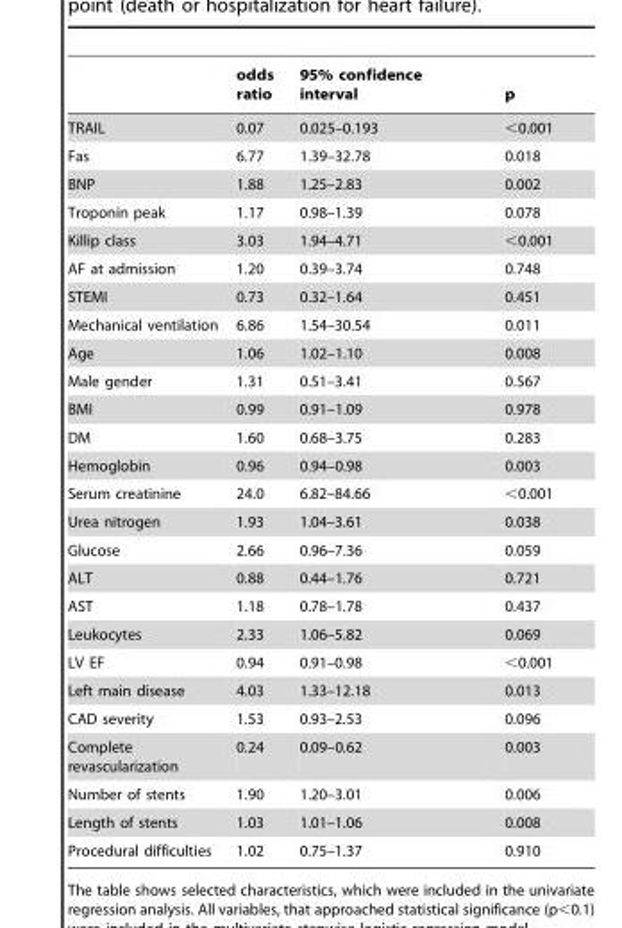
<table><thead><tr><td></td><td>odds ratio</td><td>95% confidence interval</td><td>p</td></tr></thead><tbody><tr><td>TRAIL</td><td>0.07</td><td>0.025–0.193</td><td>&lt;0.001</td></tr><tr><td>Fas</td><td>6.77</td><td>1.39–32.78</td><td>0.018</td></tr><tr><td>BNP</td><td>1.88</td><td>1.25–2.83</td><td>0.002</td></tr><tr><td>Troponin peak</td><td>1.17</td><td>0.98–1.39</td><td>0.078</td></tr><tr><td>Killip class</td><td>3.03</td><td>1.94–4.71</td><td>&lt;0.001</td></tr><tr><td>AF at admission</td><td>1.20</td><td>0.39–3.74</td><td>0.748</td></tr><tr><td>STEMI</td><td>0.73</td><td>0.32–1.64</td><td>0.451</td></tr><tr><td>Mechanical ventilation</td><td>6.86</td><td>1.54–30.54</td><td>0.011</td></tr><tr><td>Age</td><td>1.06</td><td>1.02–1.10</td><td>0.008</td></tr><tr><td>Male gender</td><td>1.31</td><td>0.51–3.41</td><td>0.567</td></tr><tr><td>BMI</td><td>0.99</td><td>0.91–1.09</td><td>0.978</td></tr><tr><td>DM</td><td>1.60</td><td>0.68–3.75</td><td>0.283</td></tr><tr><td>Hemoglobin</td><td>0.96</td><td>0.94–0.98</td><td>0.003</td></tr><tr><td>Serum creatinine</td><td>24.0</td><td>6.82–84.66</td><td>&lt;0.001</td></tr><tr><td>Urea nitrogen</td><td>1.93</td><td>1.04–3.61</td><td>0.038</td></tr><tr><td>Glucose</td><td>2.66</td><td>0.96–7.36</td><td>0.059</td></tr><tr><td>ALT</td><td>0.88</td><td>0.44–1.76</td><td>0.721</td></tr><tr><td>AST</td><td>1.18</td><td>0.78–1.78</td><td>0.437</td></tr><tr><td>Leukocytes</td><td>2.33</td><td>1.06–5.82</td><td>0.069</td></tr><tr><td>LV EF</td><td>0.94</td><td>0.91–0.98</td><td>&lt;0.001</td></tr><tr><td>Left main disease</td><td>4.03</td><td>1.33–12.18</td><td>0.013</td></tr><tr><td>CAD severity</td><td>1.53</td><td>0.93–2.53</td><td>0.096</td></tr><tr><td>Complete revascularization</td><td>0.24</td><td>0.09–0.62</td><td>0.003</td></tr><tr><td>Number of stents</td><td>1.90</td><td>1.20–3.01</td><td>0.006</td></tr><tr><td>Length of stents</td><td>1.03</td><td>1.01–1.06</td><td>0.008</td></tr><tr><td>Procedural difficulties</td><td>1.02</td><td>0.75–1.37</td><td>0.910</td></tr></tbody></table>